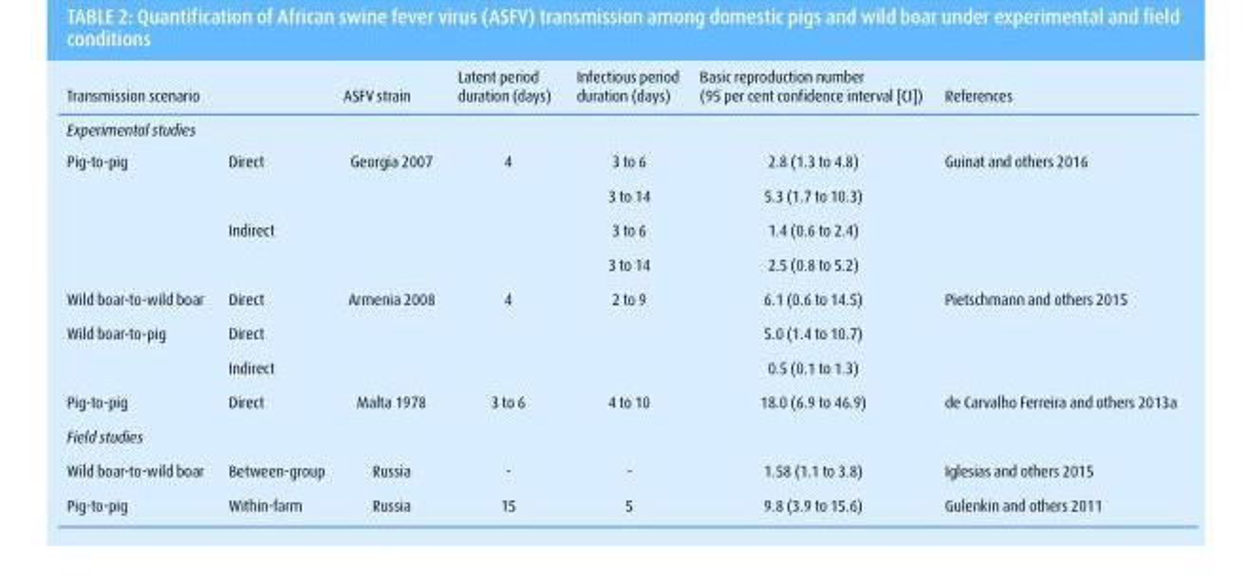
<table><thead><tr><td>Transmission scenario</td><td></td><td>ASFV strain</td><td>Latent period duration (days)</td><td>Infectious period duration (days)</td><td>Basic reproduction number (95 per cent confidence interval [CI])</td><td>References</td></tr></thead><tbody><tr><td colspan="7">Experimental studies</td></tr><tr><td rowspan="4">Pig-to-pig</td><td>Direct</td><td>Georgia 2007</td><td>4</td><td>3 to 6</td><td>2.8 (1.3 to 4.8)</td><td>Guinat and others 2016</td></tr><tr><td></td><td></td><td></td><td>3 to 14</td><td>5.3 (1.7 to 10.3)</td><td></td></tr><tr><td>Indirect</td><td></td><td></td><td>3 to 6</td><td>1.4 (0.6 to 2.4)</td><td></td></tr><tr><td></td><td></td><td></td><td>3 to 14</td><td>2.5 (0.8 to 5.2)</td><td></td></tr><tr><td>Wild boar-to-wild boar</td><td>Direct</td><td>Armenia 2008</td><td>4</td><td>2 to 9</td><td>6.1 (0.6 to 14.5)</td><td>Pietschmann and others 2015</td></tr><tr><td rowspan="2">Wild boar-to-pig</td><td>Direct</td><td></td><td></td><td></td><td>5.0 (1.4 to 10.7)</td><td></td></tr><tr><td>Indirect</td><td></td><td></td><td></td><td>0.5 (0.1 to 1.3)</td><td></td></tr><tr><td>Pig-to-pig</td><td>Direct</td><td>Malta 1978</td><td>3 to 6</td><td>4 to 10</td><td>18.0 (6.9 to 46.9)</td><td>de Carvalho Ferreira and others 2013a</td></tr><tr><td colspan="7">Field studies</td></tr><tr><td>Wild boar-to-wild boar</td><td>Between-group</td><td>Russia</td><td>-</td><td>-</td><td>1.58 (1.1 to 3.8)</td><td>Iglesias and others 2015</td></tr><tr><td>Pig-to-pig</td><td>Within-farm</td><td>Russia</td><td>15</td><td>5</td><td>9.8 (3.9 to 15.6)</td><td>Gulenkin and others 2011</td></tr></tbody></table>